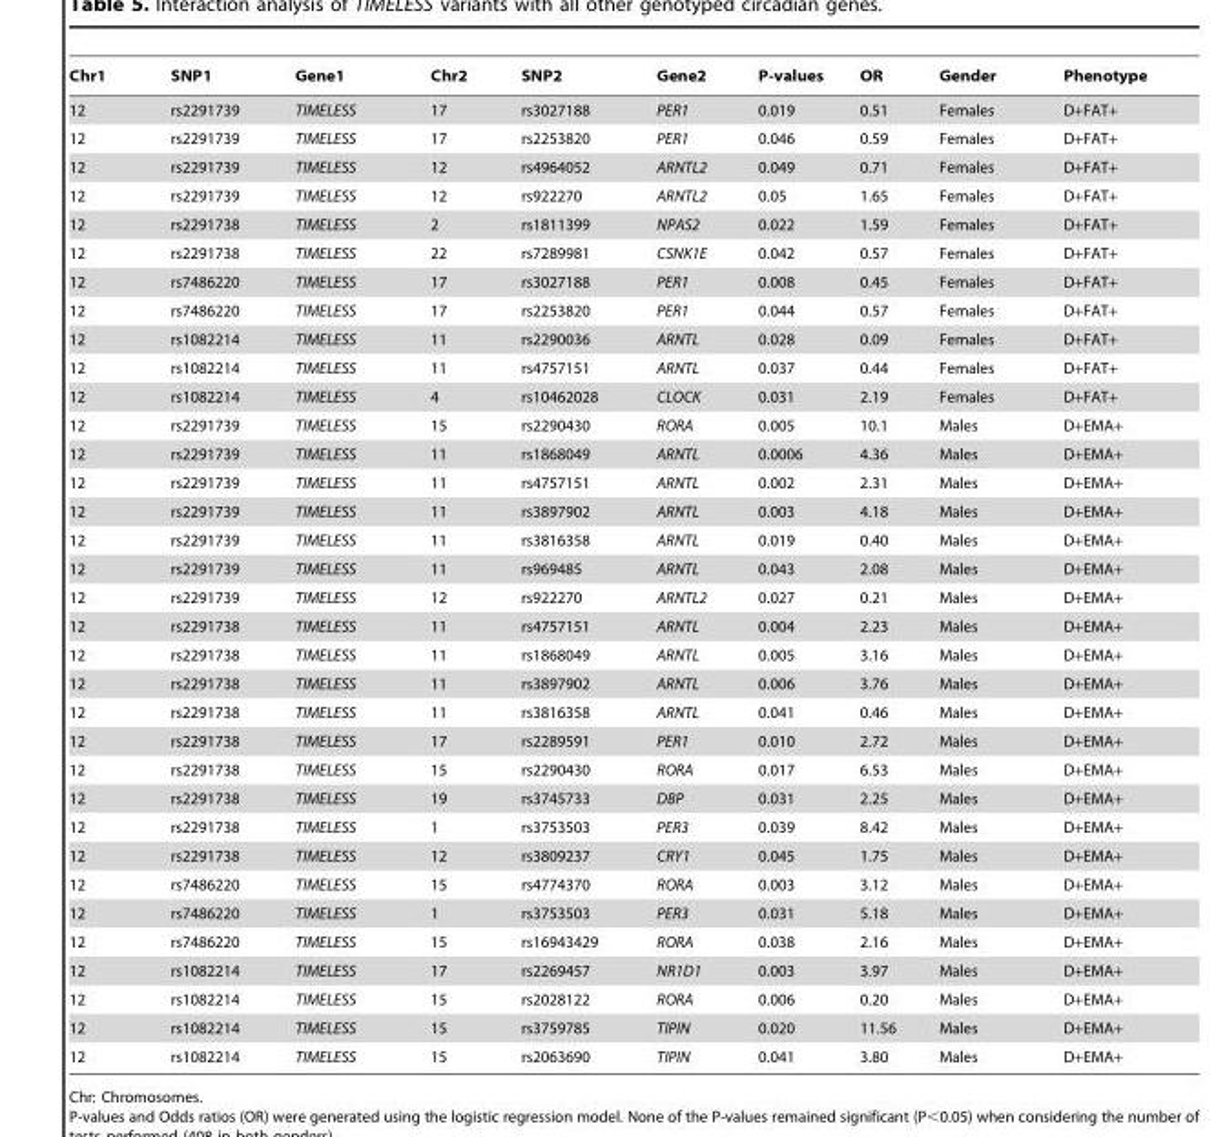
<table><thead><tr><td>Chr1</td><td>SNP1</td><td>Gene1</td><td>Chr2</td><td>SNP2</td><td>Gene2</td><td>P-values</td><td>OR</td><td>Gender</td><td>Phenotype</td></tr></thead><tbody><tr><td>12</td><td>rs2291739</td><td>TIMELESS</td><td>17</td><td>rs3027188</td><td>PER1</td><td>0.019</td><td>0.51</td><td>Females</td><td>D+FAT+</td></tr><tr><td>12</td><td>rs2291739</td><td>TIMELESS</td><td>17</td><td>rs2253820</td><td>PER1</td><td>0.046</td><td>0.59</td><td>Females</td><td>D+FAT+</td></tr><tr><td>12</td><td>rs2291739</td><td>TIMELESS</td><td>12</td><td>rs4964052</td><td>ARNTL2</td><td>0.049</td><td>0.71</td><td>Females</td><td>D+FAT+</td></tr><tr><td>12</td><td>rs2291739</td><td>TIMELESS</td><td>12</td><td>rs922270</td><td>ARNTL2</td><td>0.05</td><td>1.65</td><td>Females</td><td>D+FAT+</td></tr><tr><td>12</td><td>rs2291738</td><td>TIMELESS</td><td>2</td><td>rs1811399</td><td>NPAS2</td><td>0.022</td><td>1.59</td><td>Females</td><td>D+FAT+</td></tr><tr><td>12</td><td>rs2291738</td><td>TIMELESS</td><td>22</td><td>rs7289981</td><td>CSNK1E</td><td>0.042</td><td>0.57</td><td>Females</td><td>D+FAT+</td></tr><tr><td>12</td><td>rs7486220</td><td>TIMELESS</td><td>17</td><td>rs3027188</td><td>PER1</td><td>0.008</td><td>0.45</td><td>Females</td><td>D+FAT+</td></tr><tr><td>12</td><td>rs7486220</td><td>TIMELESS</td><td>17</td><td>rs2253820</td><td>PER1</td><td>0.044</td><td>0.57</td><td>Females</td><td>D+FAT+</td></tr><tr><td>12</td><td>rs1082214</td><td>TIMELESS</td><td>11</td><td>rs2290036</td><td>ARNTL</td><td>0.028</td><td>0.09</td><td>Females</td><td>D+FAT+</td></tr><tr><td>12</td><td>rs1082214</td><td>TIMELESS</td><td>11</td><td>rs4757151</td><td>ARNTL</td><td>0.037</td><td>0.44</td><td>Females</td><td>D+FAT+</td></tr><tr><td>12</td><td>rs1082214</td><td>TIMELESS</td><td>4</td><td>rs10462028</td><td>CLOCK</td><td>0.031</td><td>2.19</td><td>Females</td><td>D+FAT+</td></tr><tr><td>12</td><td>rs2291739</td><td>TIMELESS</td><td>15</td><td>rs2290430</td><td>RORA</td><td>0.005</td><td>10.1</td><td>Males</td><td>D+EMA+</td></tr><tr><td>12</td><td>rs2291739</td><td>TIMELESS</td><td>11</td><td>rs1868049</td><td>ARNTL</td><td>0.0006</td><td>4.36</td><td>Males</td><td>D+EMA+</td></tr><tr><td>12</td><td>rs2291739</td><td>TIMELESS</td><td>11</td><td>rs4757151</td><td>ARNTL</td><td>0.002</td><td>2.31</td><td>Males</td><td>D+EMA+</td></tr><tr><td>12</td><td>rs2291739</td><td>TIMELESS</td><td>11</td><td>rs3897902</td><td>ARNTL</td><td>0.003</td><td>4.18</td><td>Males</td><td>D+EMA+</td></tr><tr><td>12</td><td>rs2291739</td><td>TIMELESS</td><td>11</td><td>rs3816358</td><td>ARNTL</td><td>0.019</td><td>0.40</td><td>Males</td><td>D+EMA+</td></tr><tr><td>12</td><td>rs2291739</td><td>TIMELESS</td><td>11</td><td>rs969485</td><td>ARNTL</td><td>0.043</td><td>2.08</td><td>Males</td><td>D+EMA+</td></tr><tr><td>12</td><td>rs2291739</td><td>TIMELESS</td><td>12</td><td>rs922270</td><td>ARNTL2</td><td>0.027</td><td>0.21</td><td>Males</td><td>D+EMA+</td></tr><tr><td>12</td><td>rs2291738</td><td>TIMELESS</td><td>11</td><td>rs4757151</td><td>ARNTL</td><td>0.004</td><td>2.23</td><td>Males</td><td>D+EMA+</td></tr><tr><td>12</td><td>rs2291738</td><td>TIMELESS</td><td>11</td><td>rs1868049</td><td>ARNTL</td><td>0.005</td><td>3.16</td><td>Males</td><td>D+EMA+</td></tr><tr><td>12</td><td>rs2291738</td><td>TIMELESS</td><td>11</td><td>rs3897902</td><td>ARNTL</td><td>0.006</td><td>3.76</td><td>Males</td><td>D+EMA+</td></tr><tr><td>12</td><td>rs2291738</td><td>TIMELESS</td><td>11</td><td>rs3816358</td><td>ARNTL</td><td>0.041</td><td>0.46</td><td>Males</td><td>D+EMA+</td></tr><tr><td>12</td><td>rs2291738</td><td>TIMELESS</td><td>17</td><td>rs2289591</td><td>PER1</td><td>0.010</td><td>2.72</td><td>Males</td><td>D+EMA+</td></tr><tr><td>12</td><td>rs2291738</td><td>TIMELESS</td><td>15</td><td>rs2290430</td><td>RORA</td><td>0.017</td><td>6.53</td><td>Males</td><td>D+EMA+</td></tr><tr><td>12</td><td>rs2291738</td><td>TIMELESS</td><td>19</td><td>rs3745733</td><td>DBP</td><td>0.031</td><td>2.25</td><td>Males</td><td>D+EMA+</td></tr><tr><td>12</td><td>rs2291738</td><td>TIMELESS</td><td>1</td><td>rs3753503</td><td>PER3</td><td>0.039</td><td>8.42</td><td>Males</td><td>D+EMA+</td></tr><tr><td>12</td><td>rs2291738</td><td>TIMELESS</td><td>12</td><td>rs3809237</td><td>CRY1</td><td>0.045</td><td>1.75</td><td>Males</td><td>D+EMA+</td></tr><tr><td>12</td><td>rs7486220</td><td>TIMELESS</td><td>15</td><td>rs4774370</td><td>RORA</td><td>0.003</td><td>3.12</td><td>Males</td><td>D+EMA+</td></tr><tr><td>12</td><td>rs7486220</td><td>TIMELESS</td><td>1</td><td>rs3753503</td><td>PER3</td><td>0.031</td><td>5.18</td><td>Males</td><td>D+EMA+</td></tr><tr><td>12</td><td>rs7486220</td><td>TIMELESS</td><td>15</td><td>rs16943429</td><td>RORA</td><td>0.038</td><td>2.16</td><td>Males</td><td>D+EMA+</td></tr><tr><td>12</td><td>rs1082214</td><td>TIMELESS</td><td>17</td><td>rs2269457</td><td>NR1D1</td><td>0.003</td><td>3.97</td><td>Males</td><td>D+EMA+</td></tr><tr><td>12</td><td>rs1082214</td><td>TIMELESS</td><td>15</td><td>rs2028122</td><td>RORA</td><td>0.006</td><td>0.20</td><td>Males</td><td>D+EMA+</td></tr><tr><td>12</td><td>rs1082214</td><td>TIMELESS</td><td>15</td><td>rs3759785</td><td>TIPIN</td><td>0.020</td><td>11.56</td><td>Males</td><td>D+EMA+</td></tr><tr><td>12</td><td>rs1082214</td><td>TIMELESS</td><td>15</td><td>rs2063690</td><td>TIPIN</td><td>0.041</td><td>3.80</td><td>Males</td><td>D+EMA+</td></tr></tbody></table>